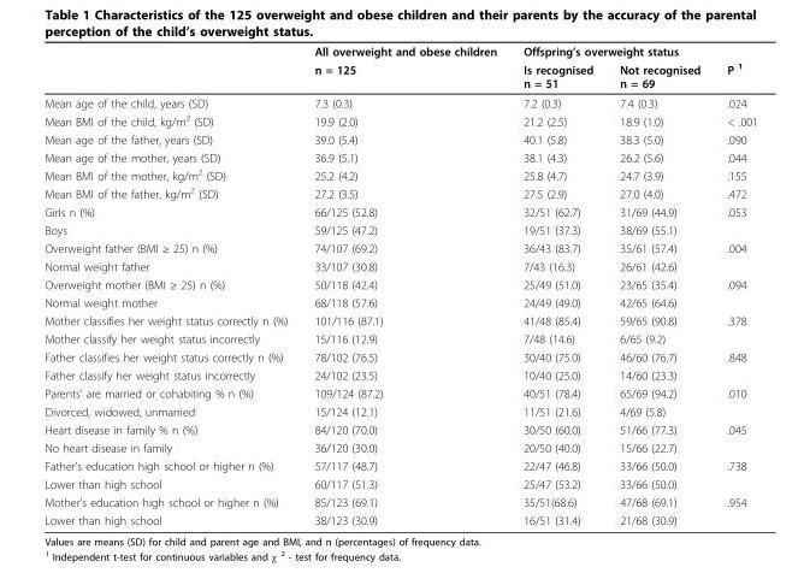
<table><thead><tr><td rowspan="2"></td><td rowspan="2">All overweight and obese children n = 125</td><td colspan="2">Offspring’s overweight status</td><td rowspan="2">P <sup>1</sup></td></tr><tr><td>Is recognised n = 51</td><td>Not recognised n = 69</td></tr></thead><tbody><tr><td>Mean age of the child, years (SD)</td><td>7.3 (0.3)</td><td>7.2 (0.3)</td><td>7.4 (0.3)</td><td>.024</td></tr><tr><td>Mean BMI of the child, kg/m<sup>2</sup> (SD)</td><td>19.9 (2.0)</td><td>21.2 (2.5)</td><td>18.9 (1.0)</td><td>&lt; .001</td></tr><tr><td>Mean age of the father, years (SD)</td><td>39.0 (5.4)</td><td>40.1 (5.8)</td><td>38.3 (5.0)</td><td>.090</td></tr><tr><td>Mean age of the mother, years (SD)</td><td>36.9 (5.1)</td><td>38.1 (4.3)</td><td>26.2 (5.6)</td><td>.044</td></tr><tr><td>Mean BMI of the mother, kg/m<sup>2</sup> (SD)</td><td>25.2 (4.2)</td><td>25.8 (4.7)</td><td>24.7 (3.9)</td><td>.155</td></tr><tr><td>Mean BMI of the father, kg/m<sup>2</sup> (SD)</td><td>27.2 (3.5)</td><td>27.5 (2.9)</td><td>27.0 (4.0)</td><td>.472</td></tr><tr><td>Girls n (%)</td><td>66/125 (52.8)</td><td>32/51 (62.7)</td><td>31/69 (44.9)</td><td>.053</td></tr><tr><td>Boys</td><td>59/125 (47.2)</td><td>19/51 (37.3)</td><td>38/69 (55.1)</td><td></td></tr><tr><td>Overweight father (BMI ≥ 25) n (%)</td><td>74/107 (69.2)</td><td>36/43 (83.7)</td><td>35/61 (57.4)</td><td>.004</td></tr><tr><td>Normal weight father</td><td>33/107 (30.8)</td><td>7/43 (16.3)</td><td>26/61 (42.6)</td><td></td></tr><tr><td>Overweight mother (BMI ≥ 25) n (%)</td><td>50/118 (42.4)</td><td>25/49 (51.0)</td><td>23/65 (35.4)</td><td>.094</td></tr><tr><td>Normal weight mother</td><td>68/118 (57.6)</td><td>24/49 (49.0)</td><td>42/65 (64.6)</td><td></td></tr><tr><td>Mother classifies her weight status correctly n (%)</td><td>101/116 (87.1)</td><td>41/48 (85.4)</td><td>59/65 (90.8)</td><td>.378</td></tr><tr><td>Mother classify her weight status incorrectly</td><td>15/116 (12.9)</td><td>7/48 (14.6)</td><td>6/65 (9.2)</td><td></td></tr><tr><td>Father classifies her weight status correctly n (%)</td><td>78/102 (76.5)</td><td>30/40 (75.0)</td><td>46/60 (76.7)</td><td>.848</td></tr><tr><td>Father classify her weight status incorrectly</td><td>24/102 (23.5)</td><td>10/40 (25.0)</td><td>14/60 (23.3)</td><td></td></tr><tr><td>Parents’ are married or cohabiting % n (%)</td><td>109/124 (87.2)</td><td>40/51 (78.4)</td><td>65/69 (94.2)</td><td>.010</td></tr><tr><td>Divorced, widowed, unmarried</td><td>15/124 (12.1)</td><td>11/51 (21.6)</td><td>4/69 (5.8)</td><td></td></tr><tr><td>Heart disease in family % n (%)</td><td>84/120 (70.0)</td><td>30/50 (60.0)</td><td>51/66 (77.3)</td><td>.045</td></tr><tr><td>No heart disease in family</td><td>36/120 (30.0)</td><td>20/50 (40.0)</td><td>15/66 (22.7)</td><td></td></tr><tr><td>Father’s education high school or higher n (%)</td><td>57/117 (48.7)</td><td>22/47 (46.8)</td><td>33/66 (50.0)</td><td>.738</td></tr><tr><td>Lower than high school</td><td>60/117 (51.3)</td><td>25/47 (53.2)</td><td>33/66 (50.0)</td><td></td></tr><tr><td>Mother’s education high school or higher n (%)</td><td>85/123 (69.1)</td><td>35/51(68.6)</td><td>47/68 (69.1)</td><td>.954</td></tr><tr><td>Lower than high school</td><td>38/123 (30.9)</td><td>16/51 (31.4)</td><td>21/68 (30.9)</td><td></td></tr></tbody></table>